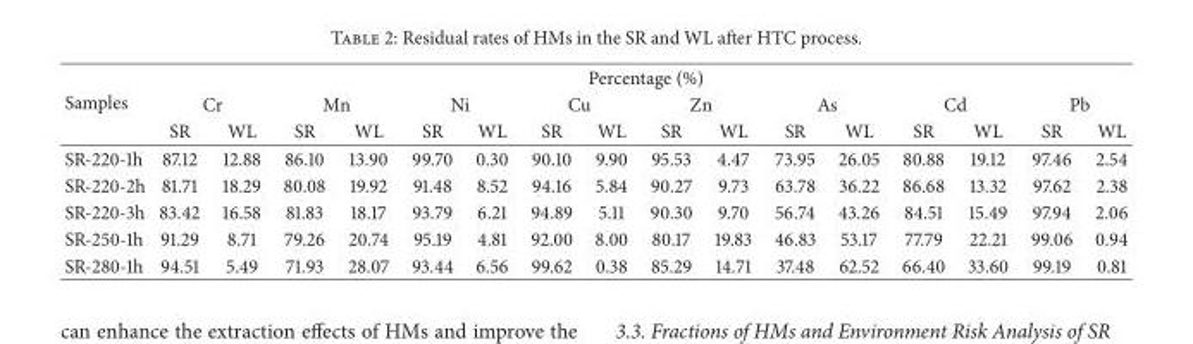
<table><thead><tr><td rowspan="3">Samples</td><td colspan="16">Percentage (%)</td></tr><tr><td colspan="2">Cr</td><td colspan="2">Mn</td><td colspan="2">Ni</td><td colspan="2">Cu</td><td colspan="2">Zn</td><td colspan="2">As</td><td colspan="2">Cd</td><td colspan="2">Pb</td></tr><tr><td>SR</td><td>WL</td><td>SR</td><td>WL</td><td>SR</td><td>WL</td><td>SR</td><td>WL</td><td>SR</td><td>WL</td><td>SR</td><td>WL</td><td>SR</td><td>WL</td><td>SR</td><td>WL</td></tr></thead><tbody><tr><td>SR-220-1h</td><td>87.12</td><td>12.88</td><td>86.10</td><td>13.90</td><td>99.70</td><td>0.30</td><td>90.10</td><td>9.90</td><td>95.53</td><td>4.47</td><td>73.95</td><td>26.05</td><td>80.88</td><td>19.12</td><td>97.46</td><td>2.54</td></tr><tr><td>SR-220-2h</td><td>81.71</td><td>18.29</td><td>80.08</td><td>19.92</td><td>91.48</td><td>8.52</td><td>94.16</td><td>5.84</td><td>90.27</td><td>9.73</td><td>63.78</td><td>36.22</td><td>86.68</td><td>13.32</td><td>97.62</td><td>2.38</td></tr><tr><td>SR-220-3h</td><td>83.42</td><td>16.58</td><td>81.83</td><td>18.17</td><td>93.79</td><td>6.21</td><td>94.89</td><td>5.11</td><td>90.30</td><td>9.70</td><td>56.74</td><td>43.26</td><td>84.51</td><td>15.49</td><td>97.94</td><td>2.06</td></tr><tr><td>SR-250-1h</td><td>91.29</td><td>8.71</td><td>79.26</td><td>20.74</td><td>95.19</td><td>4.81</td><td>92.00</td><td>8.00</td><td>80.17</td><td>19.83</td><td>46.83</td><td>53.17</td><td>77.79</td><td>22.21</td><td>99.06</td><td>0.94</td></tr><tr><td>SR-280-1h</td><td>94.51</td><td>5.49</td><td>71.93</td><td>28.07</td><td>93.44</td><td>6.56</td><td>99.62</td><td>0.38</td><td>85.29</td><td>14.71</td><td>37.48</td><td>62.52</td><td>66.40</td><td>33.60</td><td>99.19</td><td>0.81</td></tr></tbody></table>